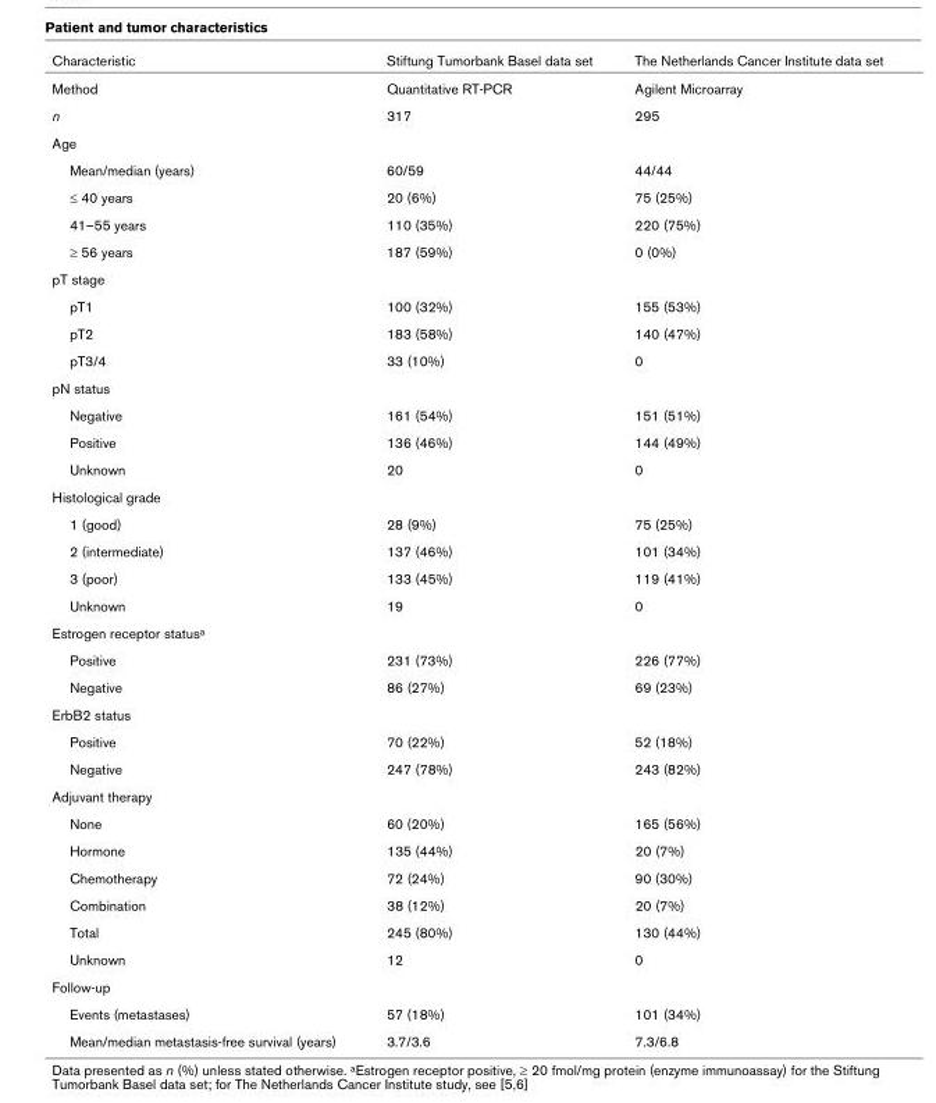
<table><thead><tr><td>Characteristic</td><td>Stiftung Tumorbank Basel data set</td><td>The Netherlands Cancer Institute data set</td></tr></thead><tbody><tr><td>Method</td><td>Quantitative RT-PCR</td><td>Agilent Microarray</td></tr><tr><td>n</td><td>317</td><td>295</td></tr><tr><td colspan="3">Age</td></tr><tr><td>Mean/median (years)</td><td>60/59</td><td>44/44</td></tr><tr><td>≤ 40 years</td><td>20 (6%)</td><td>75 (25%)</td></tr><tr><td>41–55 years</td><td>110 (35%)</td><td>220 (75%)</td></tr><tr><td>≥ 56 years</td><td>187 (59%)</td><td>0 (0%)</td></tr><tr><td colspan="3">pT stage</td></tr><tr><td>pT1</td><td>100 (32%)</td><td>155 (53%)</td></tr><tr><td>pT2</td><td>183 (58%)</td><td>140 (47%)</td></tr><tr><td>pT3/4</td><td>33 (10%)</td><td>0</td></tr><tr><td colspan="3">pN status</td></tr><tr><td>Negative</td><td>161 (54%)</td><td>151 (51%)</td></tr><tr><td>Positive</td><td>136 (46%)</td><td>144 (49%)</td></tr><tr><td>Unknown</td><td>20</td><td>0</td></tr><tr><td colspan="3">Histological grade</td></tr><tr><td>1 (good)</td><td>28 (9%)</td><td>75 (25%)</td></tr><tr><td>2 (intermediate)</td><td>137 (46%)</td><td>101 (34%)</td></tr><tr><td>3 (poor)</td><td>133 (45%)</td><td>119 (41%)</td></tr><tr><td>Unknown</td><td>19</td><td>0</td></tr><tr><td colspan="3">Estrogen receptor status<sup>a</sup></td></tr><tr><td>Positive</td><td>231 (73%)</td><td>226 (77%)</td></tr><tr><td>Negative</td><td>86 (27%)</td><td>69 (23%)</td></tr><tr><td colspan="3">ErbB2 status</td></tr><tr><td>Positive</td><td>70 (22%)</td><td>52 (18%)</td></tr><tr><td>Negative</td><td>247 (78%)</td><td>243 (82%)</td></tr><tr><td colspan="3">Adjuvant therapy</td></tr><tr><td>None</td><td>60 (20%)</td><td>165 (56%)</td></tr><tr><td>Hormone</td><td>135 (44%)</td><td>20 (7%)</td></tr><tr><td>Chemotherapy</td><td>72 (24%)</td><td>90 (30%)</td></tr><tr><td>Combination</td><td>38 (12%)</td><td>20 (7%)</td></tr><tr><td>Total</td><td>245 (80%)</td><td>130 (44%)</td></tr><tr><td>Unknown</td><td>12</td><td>0</td></tr><tr><td colspan="3">Follow-up</td></tr><tr><td>Events (metastases)</td><td>57 (18%)</td><td>101 (34%)</td></tr><tr><td>Mean/median metastasis-free survival (years)</td><td>3.7/3.6</td><td>7.3/6.8</td></tr></tbody></table>